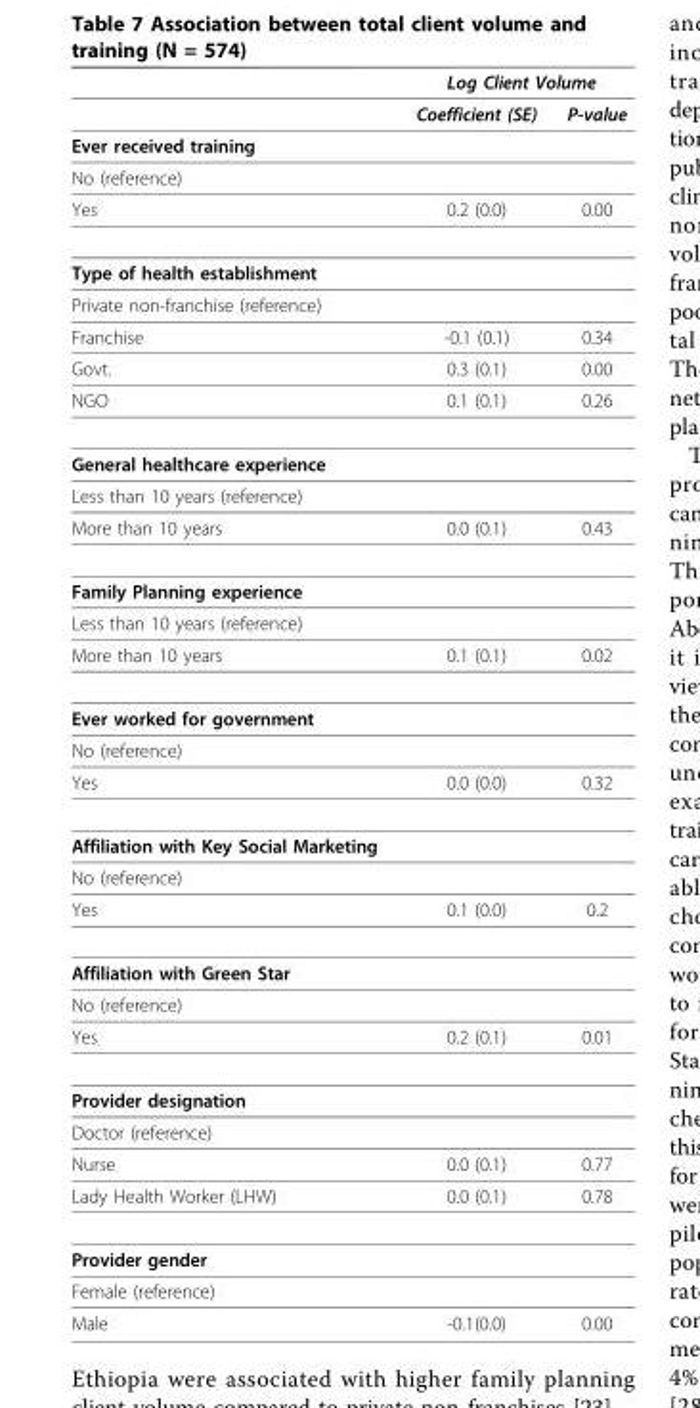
<table><thead><tr><td rowspan="2"></td><td colspan="2">Log Client Volume</td></tr><tr><td>Coefficient (SE)</td><td>P-value</td></tr></thead><tbody><tr><td colspan="3">Ever received training</td></tr><tr><td colspan="3">No (reference)</td></tr><tr><td>Yes</td><td>0.2 (0.0)</td><td>0.00</td></tr><tr><td colspan="3">Type of health establishment</td></tr><tr><td colspan="3">Private non-franchise (reference)</td></tr><tr><td>Franchise</td><td>-0.1 (0.1)</td><td>0.34</td></tr><tr><td>Govt.</td><td>0.3 (0.1)</td><td>0.00</td></tr><tr><td>NGO</td><td>0.1 (0.1)</td><td>0.26</td></tr><tr><td colspan="3">General healthcare experience</td></tr><tr><td colspan="3">Less than 10 years (reference)</td></tr><tr><td>More than 10 years</td><td>0.0 (0.1)</td><td>0.43</td></tr><tr><td colspan="3">Family Planning experience</td></tr><tr><td colspan="3">Less than 10 years (reference)</td></tr><tr><td>More than 10 years</td><td>0.1 (0.1)</td><td>0.02</td></tr><tr><td colspan="3">Ever worked for government</td></tr><tr><td colspan="3">No (reference)</td></tr><tr><td>Yes</td><td>0.0 (0.0)</td><td>0.32</td></tr><tr><td colspan="3">Affiliation with Key Social Marketing</td></tr><tr><td colspan="3">No (reference)</td></tr><tr><td>Yes</td><td>0.1 (0.0)</td><td>0.2</td></tr><tr><td colspan="3">Affiliation with Green Star</td></tr><tr><td colspan="3">No (reference)</td></tr><tr><td>Yes</td><td>0.2 (0.1)</td><td>0.01</td></tr><tr><td colspan="3">Provider designation</td></tr><tr><td colspan="3">Doctor (reference)</td></tr><tr><td>Nurse</td><td>0.0 (0.1)</td><td>0.77</td></tr><tr><td>Lady Health Worker (LHW)</td><td>0.0 (0.1)</td><td>0.78</td></tr><tr><td colspan="3">Provider gender</td></tr><tr><td colspan="3">Female (reference)</td></tr><tr><td>Male</td><td>-0.1(0.0)</td><td>0.00</td></tr></tbody></table>